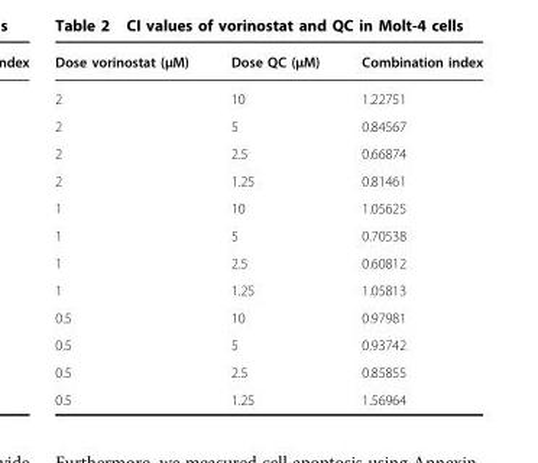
<table><thead><tr><td>Dose vorinostat (μM)</td><td>Dose QC (μM)</td><td>Combination index</td></tr></thead><tbody><tr><td>2</td><td>10</td><td>1.22751</td></tr><tr><td>2</td><td>5</td><td>0.84567</td></tr><tr><td>2</td><td>2.5</td><td>0.66874</td></tr><tr><td>2</td><td>1.25</td><td>0.81461</td></tr><tr><td>1</td><td>10</td><td>1.05625</td></tr><tr><td>1</td><td>5</td><td>0.70538</td></tr><tr><td>1</td><td>2.5</td><td>0.60812</td></tr><tr><td>1</td><td>1.25</td><td>1.05813</td></tr><tr><td>0.5</td><td>10</td><td>0.97981</td></tr><tr><td>0.5</td><td>5</td><td>0.93742</td></tr><tr><td>0.5</td><td>2.5</td><td>0.85855</td></tr><tr><td>0.5</td><td>1.25</td><td>1.56964</td></tr></tbody></table>